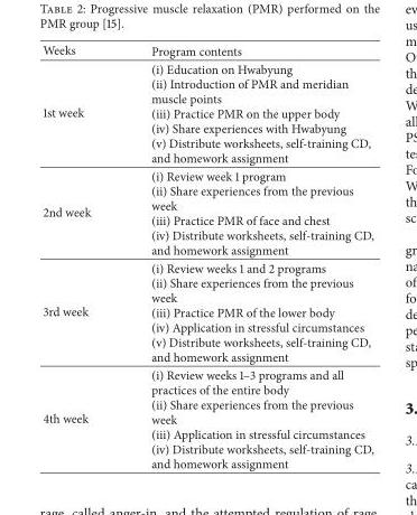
<table><thead><tr><td>Weeks</td><td>Program contents</td></tr></thead><tbody><tr><td>1st week</td><td>(i) Education on Hwabyung (ii) Introduction of PMR and meridian muscle points (iii) Practice PMR on the upper body (iv) Share experiences with Hwabyung (v) Distribute worksheets, self-training CD, and homework assignment</td></tr><tr><td>2nd week</td><td>(i) Review week 1 program (ii) Share experiences from the previous week (iii) Practice PMR of face and chest (iv) Distribute worksheets, self-training CD, and homework assignment</td></tr><tr><td>3rd week</td><td>(i) Review weeks 1 and 2 programs (ii) Share experiences from the previous week (iii) Practice PMR of the lower body (iv) Application in stressful circumstances (v) Distribute worksheets, self-training CD, and homework assignment</td></tr><tr><td>4th week</td><td>(i) Review weeks 1–3 programs and all practices of the entire body (ii) Share experiences from the previous week (iii) Application in stressful circumstances (iv) Distribute worksheets, self-training CD, and homework assignment</td></tr></tbody></table>